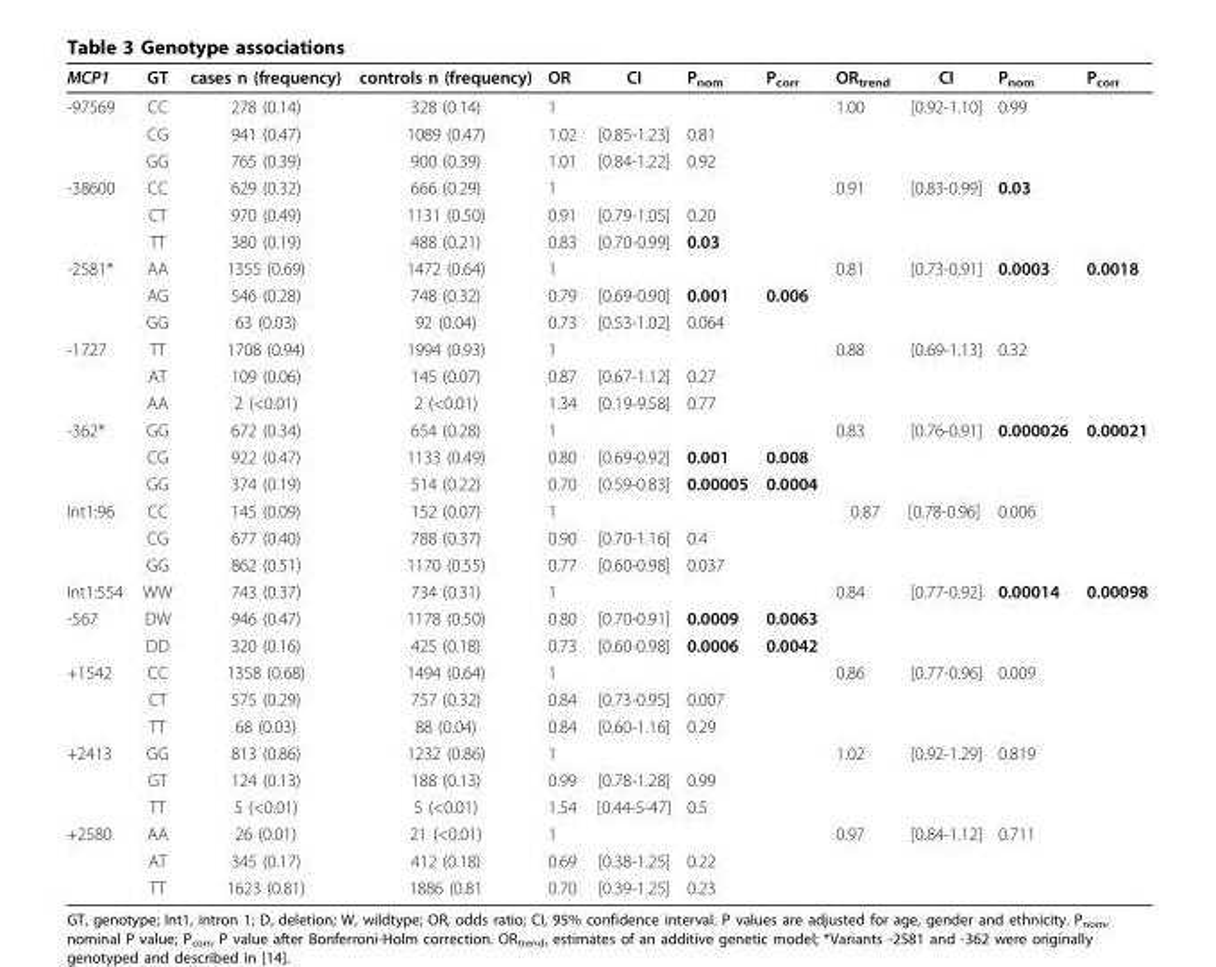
<table><thead><tr><td>MCP1</td><td>GT</td><td>cases n (frequency)</td><td>controls n (frequency)</td><td>OR</td><td>CI</td><td>P<sub>nom</sub></td><td>P<sub>corr</sub></td><td>OR<sub>trend</sub></td><td>CI</td><td>P<sub>nom</sub></td><td>P<sub>corr</sub></td></tr></thead><tbody><tr><td rowspan="3">-97569</td><td>CC</td><td>278 (0.14)</td><td>328 (0.14)</td><td>1</td><td></td><td></td><td></td><td>1.00</td><td>[0.92-1.10]</td><td>0.99</td><td></td></tr><tr><td>CG</td><td>941 (0.47)</td><td>1089 (0.47)</td><td>1.02</td><td>[0.85-1.23]</td><td>0.81</td><td></td><td></td><td></td><td></td><td></td></tr><tr><td>GG</td><td>765 (0.39)</td><td>900 (0.39)</td><td>1.01</td><td>[0.84-1.22]</td><td>0.92</td><td></td><td></td><td></td><td></td><td></td></tr><tr><td rowspan="3">-38600</td><td>CC</td><td>629 (0.32)</td><td>666 (0.29)</td><td>1</td><td></td><td></td><td></td><td>0.91</td><td>[0.83-0.99]</td><td>0.03</td><td></td></tr><tr><td>CT</td><td>970 (0.49)</td><td>1131 (0.50)</td><td>0.91</td><td>[0.79-1.05]</td><td>0.20</td><td></td><td></td><td></td><td></td><td></td></tr><tr><td>TT</td><td>380 (0.19)</td><td>488 (0.21)</td><td>0.83</td><td>[0.70-0.99]</td><td>0.03</td><td></td><td></td><td></td><td></td><td></td></tr><tr><td rowspan="3">-2581*</td><td>AA</td><td>1355 (0.69)</td><td>1472 (0.64)</td><td>1</td><td></td><td></td><td></td><td>0.81</td><td>[0.73-0.91]</td><td>0.0003</td><td>0.0018</td></tr><tr><td>AG</td><td>546 (0.28)</td><td>748 (0.32)</td><td>0.79</td><td>[0.69-0.90]</td><td>0.001</td><td>0.006</td><td></td><td></td><td></td><td></td></tr><tr><td>GG</td><td>63 (0.03)</td><td>92 (0.04)</td><td>0.73</td><td>[0.53-1.02]</td><td>0.064</td><td></td><td></td><td></td><td></td><td></td></tr><tr><td rowspan="3">-1727</td><td>TT</td><td>1708 (0.94)</td><td>1994 (0.93)</td><td>1</td><td></td><td></td><td></td><td>0.88</td><td>[0.69-1.13]</td><td>0.32</td><td></td></tr><tr><td>AT</td><td>109 (0.06)</td><td>145 (0.07)</td><td>0.87</td><td>[0.67-1.12]</td><td>0.27</td><td></td><td></td><td></td><td></td><td></td></tr><tr><td>AA</td><td>2 (&lt;0.01)</td><td>2 (&lt;0.01)</td><td>1.34</td><td>[0.19-9.58]</td><td>0.77</td><td></td><td></td><td></td><td></td><td></td></tr><tr><td rowspan="3">-362*</td><td>GG</td><td>672 (0.34)</td><td>654 (0.28)</td><td>1</td><td></td><td></td><td></td><td>0.83</td><td>[0.76-0.91]</td><td>0.000026</td><td>0.00021</td></tr><tr><td>CG</td><td>922 (0.47)</td><td>1133 (0.49)</td><td>0.80</td><td>[0.69-0.92]</td><td>0.001</td><td>0.008</td><td></td><td></td><td></td><td></td></tr><tr><td>GG</td><td>374 (0.19)</td><td>514 (0.22)</td><td>0.70</td><td>[0.59-0.83]</td><td>0.00005</td><td>0.0004</td><td></td><td></td><td></td><td></td></tr><tr><td rowspan="3">Int1:96</td><td>CC</td><td>145 (0.09)</td><td>152 (0.07)</td><td>1</td><td></td><td></td><td></td><td>0.87</td><td>[0.78-0.96]</td><td>0.006</td><td></td></tr><tr><td>CG</td><td>677 (0.40)</td><td>788 (0.37)</td><td>0.90</td><td>[0.70-1.16]</td><td>0.4</td><td></td><td></td><td></td><td></td><td></td></tr><tr><td>GG</td><td>862 (0.51)</td><td>1170 (0.55)</td><td>0.77</td><td>[0.60-0.98]</td><td>0.037</td><td></td><td></td><td></td><td></td><td></td></tr><tr><td>Int1:554</td><td>WW</td><td>743 (0.37)</td><td>734 (0.31)</td><td>1</td><td></td><td></td><td></td><td>0.84</td><td>[0.77-0.92]</td><td>0.00014</td><td>0.00098</td></tr><tr><td rowspan="2">-567</td><td>DW</td><td>946 (0.47)</td><td>1178 (0.50)</td><td>0.80</td><td>[0.70-0.91]</td><td>0.0009</td><td>0.0063</td><td></td><td></td><td></td><td></td></tr><tr><td>DD</td><td>320 (0.16)</td><td>425 (0.18)</td><td>0.73</td><td>[0.60-0.98]</td><td>0.0006</td><td>0.0042</td><td></td><td></td><td></td><td></td></tr><tr><td rowspan="3">+1542</td><td>CC</td><td>1358 (0.68)</td><td>1494 (0.64)</td><td>1</td><td></td><td></td><td></td><td>0.86</td><td>[0.77-0.96]</td><td>0.009</td><td></td></tr><tr><td>CT</td><td>575 (0.29)</td><td>757 (0.32)</td><td>0.84</td><td>[0.73-0.95]</td><td>0.007</td><td></td><td></td><td></td><td></td><td></td></tr><tr><td>TT</td><td>68 (0.03)</td><td>88 (0.04)</td><td>0.84</td><td>[0.60-1.16]</td><td>0.29</td><td></td><td></td><td></td><td></td><td></td></tr><tr><td rowspan="3">+2413</td><td>GG</td><td>813 (0.86)</td><td>1232 (0.86)</td><td>1</td><td></td><td></td><td></td><td>1.02</td><td>[0.92-1.29]</td><td>0.819</td><td></td></tr><tr><td>GT</td><td>124 (0.13)</td><td>188 (0.13)</td><td>0.99</td><td>[0.78-1.28]</td><td>0.99</td><td></td><td></td><td></td><td></td><td></td></tr><tr><td>TT</td><td>5 (&lt;0.01)</td><td>5 (&lt;0.01)</td><td>1.54</td><td>[0.44-5-47]</td><td>0.5</td><td></td><td></td><td></td><td></td><td></td></tr><tr><td rowspan="3">+2580</td><td>AA</td><td>26 (0.01)</td><td>21 (&lt;0.01)</td><td>1</td><td></td><td></td><td></td><td>0.97</td><td>[0.84-1.12]</td><td>0.711</td><td></td></tr><tr><td>AT</td><td>345 (0.17)</td><td>412 (0.18)</td><td>0.69</td><td>[0.38-1.25]</td><td>0.22</td><td></td><td></td><td></td><td></td><td></td></tr><tr><td>TT</td><td>1623 (0.81)</td><td>1886 (0.81</td><td>0.70</td><td>[0.39-1.25]</td><td>0.23</td><td></td><td></td><td></td><td></td><td></td></tr></tbody></table>